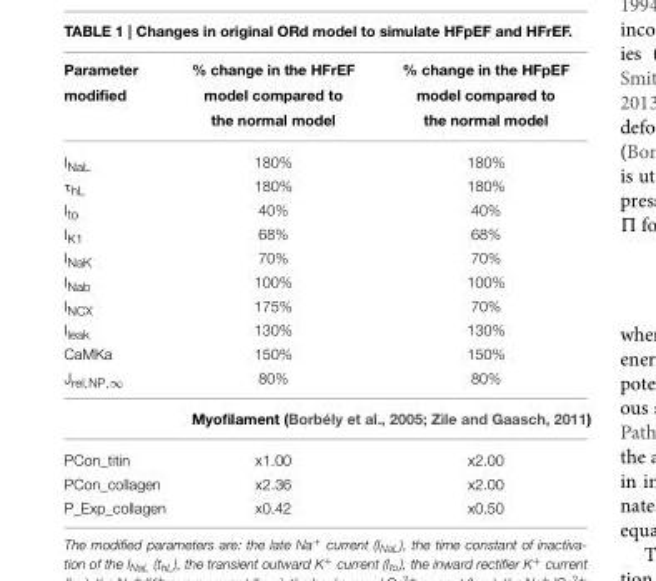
<table><thead><tr><td>Parameter modified</td><td>% change in the HFrEF model compared to the normal model</td><td>% change in the HFpEF model compared to the normal model</td></tr></thead><tbody><tr><td>I<sub>NaL</sub></td><td>180%</td><td>180%</td></tr><tr><td>τ<sub>hL</sub></td><td>180%</td><td>180%</td></tr><tr><td>I<sub>to</sub></td><td>40%</td><td>40%</td></tr><tr><td>I<sub>K1</sub></td><td>68%</td><td>68%</td></tr><tr><td>I<sub>NaK</sub></td><td>70%</td><td>70%</td></tr><tr><td>I<sub>Nab</sub></td><td>100%</td><td>100%</td></tr><tr><td>I<sub>NCX</sub></td><td>175%</td><td>70%</td></tr><tr><td>I<sub>leak</sub></td><td>130%</td><td>130%</td></tr><tr><td>CaMKa</td><td>150%</td><td>150%</td></tr><tr><td rowspan="2">J<sub>rel,NP,∞</sub></td><td>80%</td><td>80%</td></tr><tr><td colspan="2">Myofilament (Borbély et al., 2005; Zile and Gaasch, 2011)</td></tr><tr><td>PCon_titin</td><td>x1.00</td><td>x2.00</td></tr><tr><td>PCon_collagen</td><td>x2.36</td><td>x2.00</td></tr><tr><td>P_Exp_collagen</td><td>x0.42</td><td>x0.50</td></tr></tbody></table>